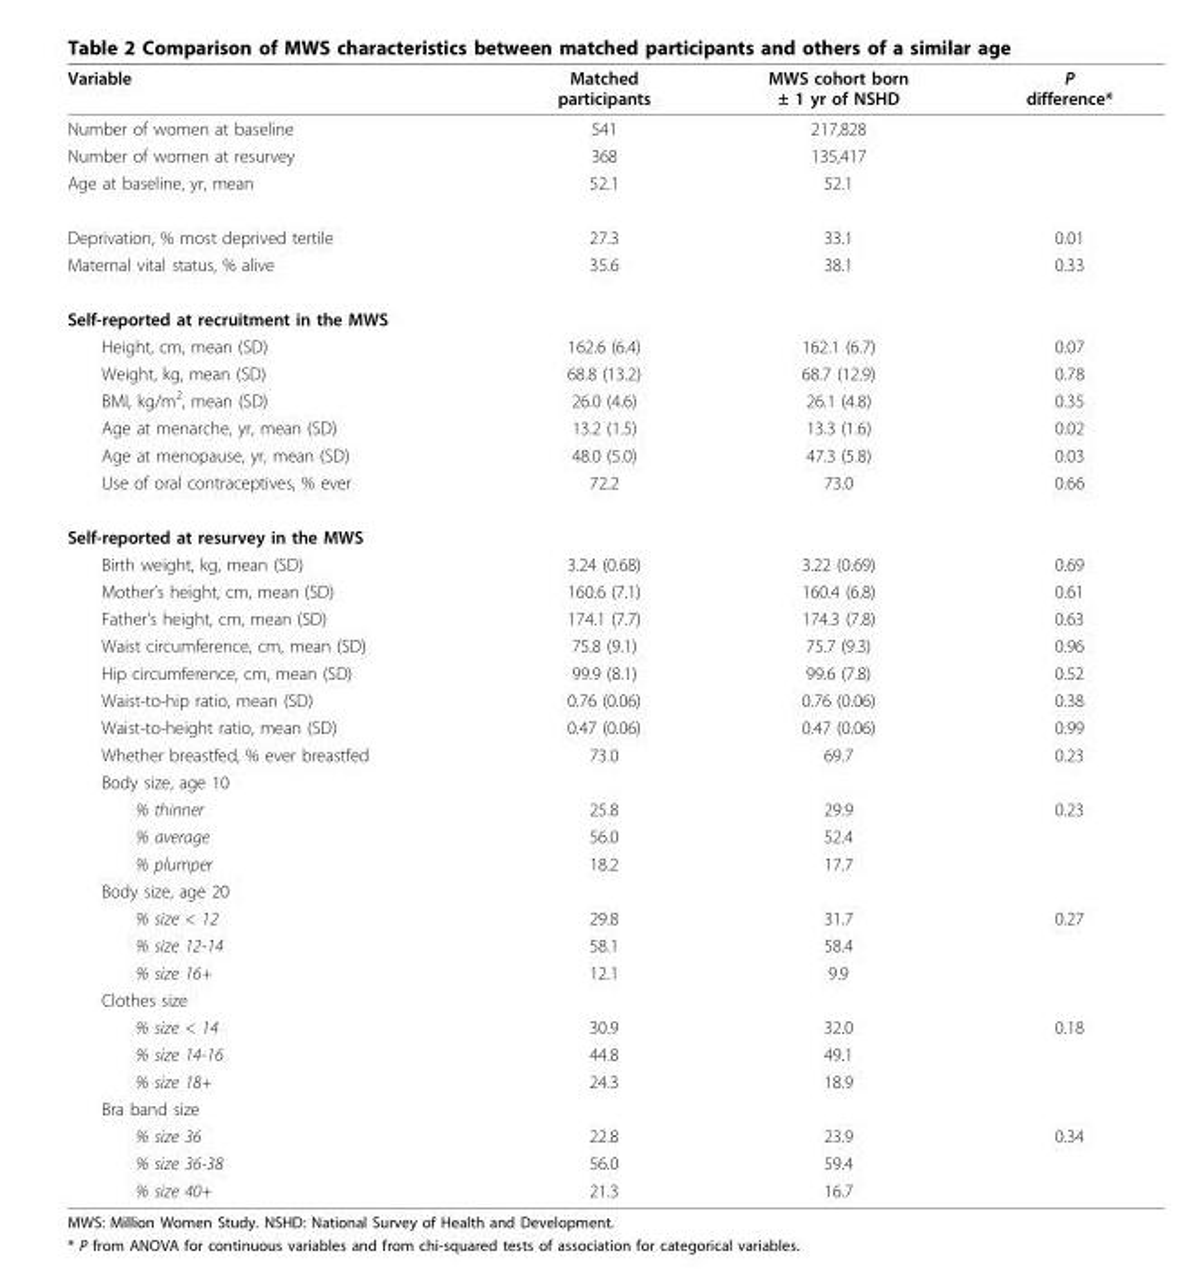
<table><thead><tr><td>Variable</td><td>Matched participants</td><td>MWS cohort born ± 1 yr of NSHD</td><td>P difference*</td></tr></thead><tbody><tr><td>Number of women at baseline</td><td>541</td><td>217,828</td><td></td></tr><tr><td>Number of women at resurvey</td><td>368</td><td>135,417</td><td></td></tr><tr><td>Age at baseline, yr, mean</td><td>52.1</td><td>52.1</td><td></td></tr><tr><td>Deprivation, % most deprived tertile</td><td>27.3</td><td>33.1</td><td>0.01</td></tr><tr><td>Maternal vital status, % alive</td><td>35.6</td><td>38.1</td><td>0.33</td></tr><tr><td colspan="4">Self-reported at recruitment in the MWS</td></tr><tr><td>Height, cm, mean (SD)</td><td>162.6 (6.4)</td><td>162.1 (6.7)</td><td>0.07</td></tr><tr><td>Weight, kg, mean (SD)</td><td>68.8 (13.2)</td><td>68.7 (12.9)</td><td>0.78</td></tr><tr><td>BMI, kg/m<sup>2</sup>, mean (SD)</td><td>26.0 (4.6)</td><td>26.1 (4.8)</td><td>0.35</td></tr><tr><td>Age at menarche, yr, mean (SD)</td><td>13.2 (1.5)</td><td>13.3 (1.6)</td><td>0.02</td></tr><tr><td>Age at menopause, yr, mean (SD)</td><td>48.0 (5.0)</td><td>47.3 (5.8)</td><td>0.03</td></tr><tr><td>Use of oral contraceptives, % ever</td><td>72.2</td><td>73.0</td><td>0.66</td></tr><tr><td colspan="4">Self-reported at resurvey in the MWS</td></tr><tr><td>Birth weight, kg, mean (SD)</td><td>3.24 (0.68)</td><td>3.22 (0.69)</td><td>0.69</td></tr><tr><td>Mother’s height, cm, mean (SD)</td><td>160.6 (7.1)</td><td>160.4 (6.8)</td><td>0.61</td></tr><tr><td>Father’s height, cm, mean (SD)</td><td>174.1 (7.7)</td><td>174.3 (7.8)</td><td>0.63</td></tr><tr><td>Waist circumference, cm, mean (SD)</td><td>75.8 (9.1)</td><td>75.7 (9.3)</td><td>0.96</td></tr><tr><td>Hip circumference, cm, mean (SD)</td><td>99.9 (8.1)</td><td>99.6 (7.8)</td><td>0.52</td></tr><tr><td>Waist-to-hip ratio, mean (SD)</td><td>0.76 (0.06)</td><td>0.76 (0.06)</td><td>0.38</td></tr><tr><td>Waist-to-height ratio, mean (SD)</td><td>0.47 (0.06)</td><td>0.47 (0.06)</td><td>0.99</td></tr><tr><td>Whether breastfed, % ever breastfed</td><td>73.0</td><td>69.7</td><td>0.23</td></tr><tr><td colspan="4">Body size, age 10</td></tr><tr><td>% thinner</td><td>25.8</td><td>29.9</td><td>0.23</td></tr><tr><td>% average</td><td>56.0</td><td>52.4</td><td></td></tr><tr><td>% plumper</td><td>18.2</td><td>17.7</td><td></td></tr><tr><td colspan="4">Body size, age 20</td></tr><tr><td>% size &lt; 12</td><td>29.8</td><td>31.7</td><td>0.27</td></tr><tr><td>% size 12-14</td><td>58.1</td><td>58.4</td><td></td></tr><tr><td>% size 16+</td><td>12.1</td><td>9.9</td><td></td></tr><tr><td colspan="4">Clothes size</td></tr><tr><td>% size &lt; 14</td><td>30.9</td><td>32.0</td><td>0.18</td></tr><tr><td>% size 14-16</td><td>44.8</td><td>49.1</td><td></td></tr><tr><td>% size 18+</td><td>24.3</td><td>18.9</td><td></td></tr><tr><td colspan="4">Bra band size</td></tr><tr><td>% size 36</td><td>22.8</td><td>23.9</td><td>0.34</td></tr><tr><td>% size 36-38</td><td>56.0</td><td>59.4</td><td></td></tr><tr><td>% size 40+</td><td>21.3</td><td>16.7</td><td></td></tr></tbody></table>